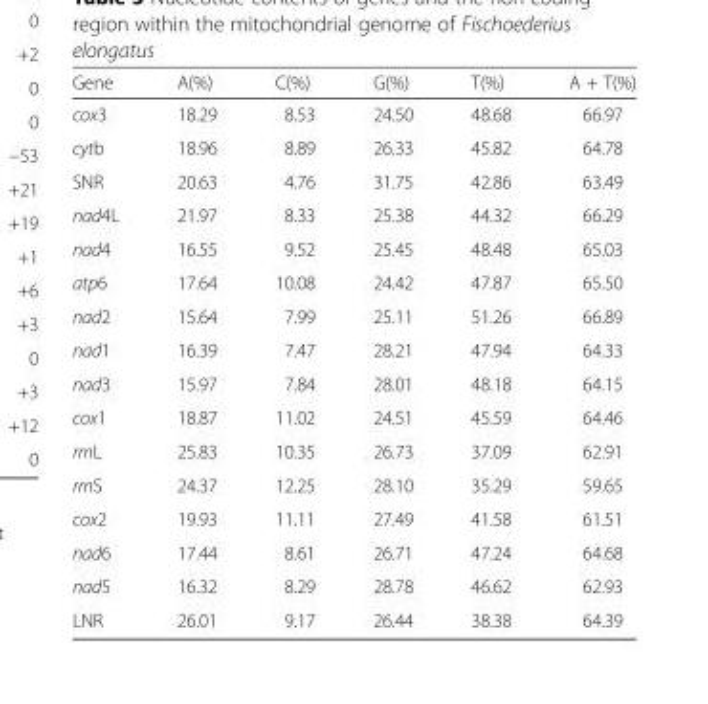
<table><thead><tr><td>Gene</td><td>A(%)</td><td>C(%)</td><td>G(%)</td><td>T(%)</td><td>A + T(%)</td></tr></thead><tbody><tr><td>cox3</td><td>18.29</td><td>8.53</td><td>24.50</td><td>48.68</td><td>66.97</td></tr><tr><td>cytb</td><td>18.96</td><td>8.89</td><td>26.33</td><td>45.82</td><td>64.78</td></tr><tr><td>SNR</td><td>20.63</td><td>4.76</td><td>31.75</td><td>42.86</td><td>63.49</td></tr><tr><td>nad4L</td><td>21.97</td><td>8.33</td><td>25.38</td><td>44.32</td><td>66.29</td></tr><tr><td>nad4</td><td>16.55</td><td>9.52</td><td>25.45</td><td>48.48</td><td>65.03</td></tr><tr><td>atp6</td><td>17.64</td><td>10.08</td><td>24.42</td><td>47.87</td><td>65.50</td></tr><tr><td>nad2</td><td>15.64</td><td>7.99</td><td>25.11</td><td>51.26</td><td>66.89</td></tr><tr><td>nad1</td><td>16.39</td><td>7.47</td><td>28.21</td><td>47.94</td><td>64.33</td></tr><tr><td>nad3</td><td>15.97</td><td>7.84</td><td>28.01</td><td>48.18</td><td>64.15</td></tr><tr><td>cox1</td><td>18.87</td><td>11.02</td><td>24.51</td><td>45.59</td><td>64.46</td></tr><tr><td>rrnL</td><td>25.83</td><td>10.35</td><td>26.73</td><td>37.09</td><td>62.91</td></tr><tr><td>rrnS</td><td>24.37</td><td>12.25</td><td>28.10</td><td>35.29</td><td>59.65</td></tr><tr><td>cox2</td><td>19.93</td><td>11.11</td><td>27.49</td><td>41.58</td><td>61.51</td></tr><tr><td>nad6</td><td>17.44</td><td>8.61</td><td>26.71</td><td>47.24</td><td>64.68</td></tr><tr><td>nad5</td><td>16.32</td><td>8.29</td><td>28.78</td><td>46.62</td><td>62.93</td></tr><tr><td>LNR</td><td>26.01</td><td>9.17</td><td>26.44</td><td>38.38</td><td>64.39</td></tr></tbody></table>